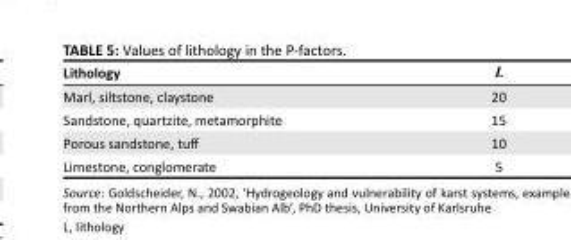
<table><thead><tr><td>Lithology</td><td>L</td></tr></thead><tbody><tr><td>Marl, siltstone, claystone</td><td>20</td></tr><tr><td>Sandstone, quartzite, metamorphite</td><td>15</td></tr><tr><td>Porous sandstone, tuff</td><td>10</td></tr><tr><td>Limestone, conglomerate</td><td>5</td></tr></tbody></table>